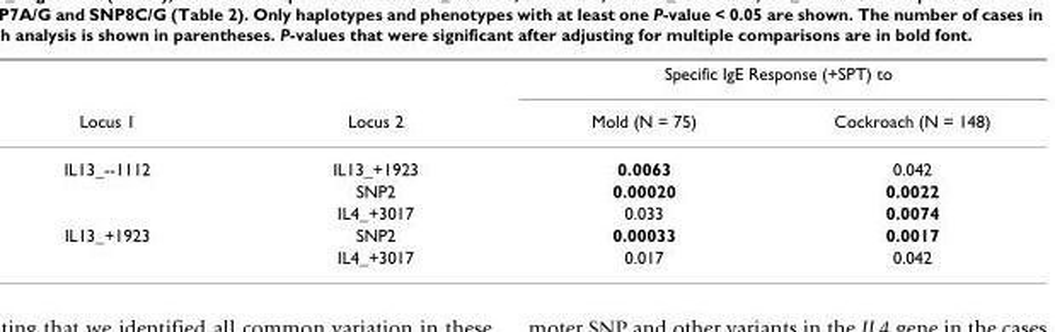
<table><thead><tr><td rowspan="2">Locus 1</td><td rowspan="2">Locus 2</td><td colspan="2">Specific IgE Response (+SPT) to</td></tr><tr><td>Mold (N = 75)</td><td>Cockroach (N = 148)</td></tr></thead><tbody><tr><td rowspan="3">IL13_--1112</td><td>IL13_+1923</td><td>0.0063</td><td>0.042</td></tr><tr><td>SNP2</td><td>0.00020</td><td>0.0022</td></tr><tr><td>IL4_+3017</td><td>0.033</td><td>0.0074</td></tr><tr><td rowspan="2">IL13_+1923</td><td>SNP2</td><td>0.00033</td><td>0.0017</td></tr><tr><td>IL4_+3017</td><td>0.017</td><td>0.042</td></tr></tbody></table>